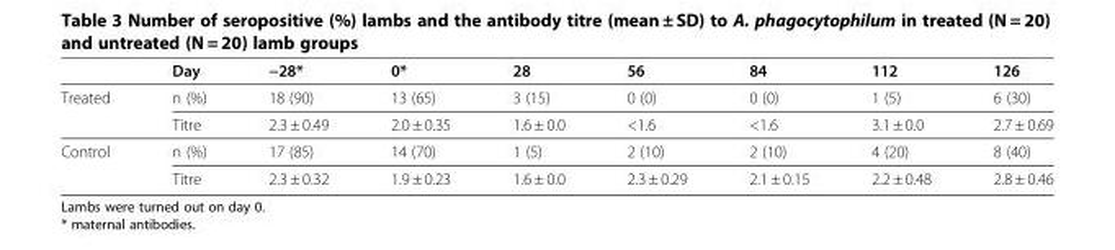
<table><thead><tr><td></td><td>Day</td><td>−28*</td><td>0*</td><td>28</td><td>56</td><td>84</td><td>112</td><td>126</td></tr></thead><tbody><tr><td rowspan="2">Treated</td><td>n (%)</td><td>18 (90)</td><td>13 (65)</td><td>3 (15)</td><td>0 (0)</td><td>0 (0)</td><td>1 (5)</td><td>6 (30)</td></tr><tr><td>Titre</td><td>2.3 ± 0.49</td><td>2.0 ± 0.35</td><td>1.6 ± 0.0</td><td>&lt;1.6</td><td>&lt;1.6</td><td>3.1 ± 0.0</td><td>2.7 ± 0.69</td></tr><tr><td rowspan="2">Control</td><td>n (%)</td><td>17 (85)</td><td>14 (70)</td><td>1 (5)</td><td>2 (10)</td><td>2 (10)</td><td>4 (20)</td><td>8 (40)</td></tr><tr><td>Titre</td><td>2.3 ± 0.32</td><td>1.9 ± 0.23</td><td>1.6 ± 0.0</td><td>2.3 ± 0.29</td><td>2.1 ± 0.15</td><td>2.2 ± 0.48</td><td>2.8 ± 0.46</td></tr></tbody></table>